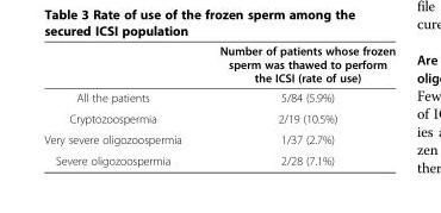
<table><thead><tr><td></td><td>Number of patients whose frozen sperm was thawed to perform the ICSI (rate of use)</td></tr></thead><tbody><tr><td>All the patients</td><td>5/84 (5.9%)</td></tr><tr><td>Cryptozoospermia</td><td>2/19 (10.5%)</td></tr><tr><td>Very severe oligozoospermia</td><td>1/37 (2.7%)</td></tr><tr><td>Severe oligozoospermia</td><td>2/28 (7.1%)</td></tr></tbody></table>